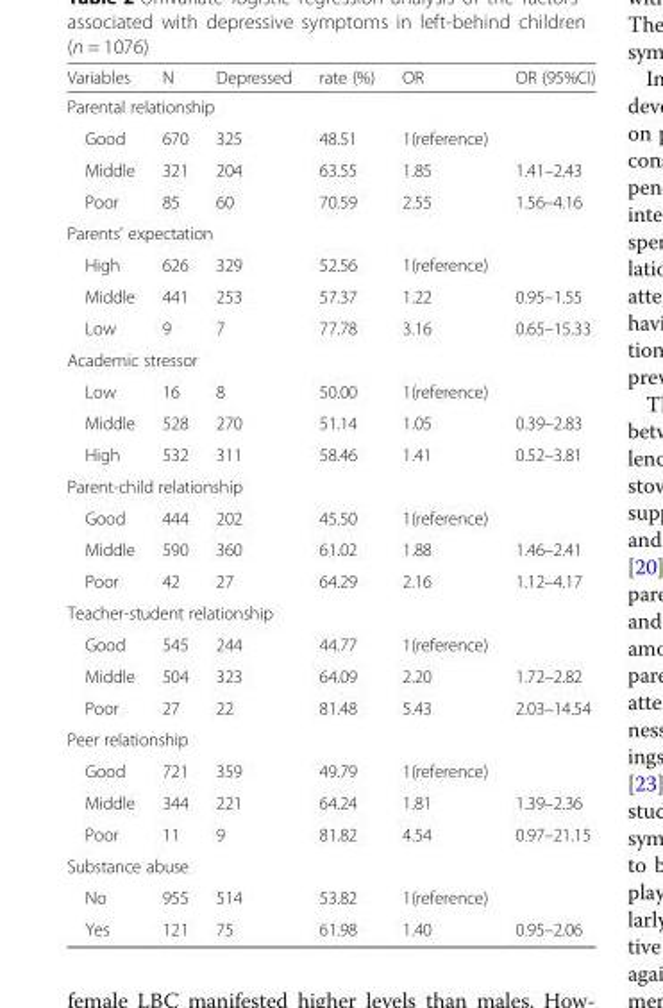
<table><thead><tr><td>Variables</td><td>N</td><td>Depressed</td><td>rate (%)</td><td>OR</td><td>OR (95%CI)</td></tr></thead><tbody><tr><td colspan="6">Parental relationship</td></tr><tr><td>Good</td><td>670</td><td>325</td><td>48.51</td><td>1(reference)</td><td></td></tr><tr><td>Middle</td><td>321</td><td>204</td><td>63.55</td><td>1.85</td><td>1.41–2.43</td></tr><tr><td>Poor</td><td>85</td><td>60</td><td>70.59</td><td>2.55</td><td>1.56–4.16</td></tr><tr><td colspan="6">Parents’ expectation</td></tr><tr><td>High</td><td>626</td><td>329</td><td>52.56</td><td>1(reference)</td><td></td></tr><tr><td>Middle</td><td>441</td><td>253</td><td>57.37</td><td>1.22</td><td>0.95–1.55</td></tr><tr><td>Low</td><td>9</td><td>7</td><td>77.78</td><td>3.16</td><td>0.65–15.33</td></tr><tr><td colspan="6">Academic stressor</td></tr><tr><td>Low</td><td>16</td><td>8</td><td>50.00</td><td>1(reference)</td><td></td></tr><tr><td>Middle</td><td>528</td><td>270</td><td>51.14</td><td>1.05</td><td>0.39–2.83</td></tr><tr><td>High</td><td>532</td><td>311</td><td>58.46</td><td>1.41</td><td>0.52–3.81</td></tr><tr><td colspan="6">Parent-child relationship</td></tr><tr><td>Good</td><td>444</td><td>202</td><td>45.50</td><td>1(reference)</td><td></td></tr><tr><td>Middle</td><td>590</td><td>360</td><td>61.02</td><td>1.88</td><td>1.46–2.41</td></tr><tr><td>Poor</td><td>42</td><td>27</td><td>64.29</td><td>2.16</td><td>1.12–4.17</td></tr><tr><td colspan="6">Teacher-student relationship</td></tr><tr><td>Good</td><td>545</td><td>244</td><td>44.77</td><td>1(reference)</td><td></td></tr><tr><td>Middle</td><td>504</td><td>323</td><td>64.09</td><td>2.20</td><td>1.72–2.82</td></tr><tr><td>Poor</td><td>27</td><td>22</td><td>81.48</td><td>5.43</td><td>2.03–14.54</td></tr><tr><td colspan="6">Peer relationship</td></tr><tr><td>Good</td><td>721</td><td>359</td><td>49.79</td><td>1(reference)</td><td></td></tr><tr><td>Middle</td><td>344</td><td>221</td><td>64.24</td><td>1.81</td><td>1.39–2.36</td></tr><tr><td>Poor</td><td>11</td><td>9</td><td>81.82</td><td>4.54</td><td>0.97–21.15</td></tr><tr><td colspan="6">Substance abuse</td></tr><tr><td>No</td><td>955</td><td>514</td><td>53.82</td><td>1(reference)</td><td></td></tr><tr><td>Yes</td><td>121</td><td>75</td><td>61.98</td><td>1.40</td><td>0.95–2.06</td></tr></tbody></table>